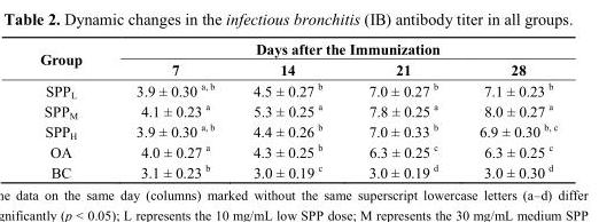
<table><thead><tr><td rowspan="2">Group</td><td colspan="4">Days after the Immunization</td></tr><tr><td>7</td><td>14</td><td>21</td><td>28</td></tr></thead><tbody><tr><td>SPP<sub>L</sub></td><td>3.9 ± 0.30 <sup>a, b</sup></td><td>4.5 ± 0.27 <sup>b</sup></td><td>7.0 ± 0.27 <sup>b</sup></td><td>7.1 ± 0.23 <sup>b</sup></td></tr><tr><td>SPP<sub>M</sub></td><td>4.1 ± 0.23 <sup>a</sup></td><td>5.3 ± 0.25 <sup>a</sup></td><td>7.8 ± 0.25 <sup>a</sup></td><td>8.0 ± 0.27 <sup>a</sup></td></tr><tr><td>SPP<sub>H</sub></td><td>3.9 ± 0.30 <sup>a, b</sup></td><td>4.4 ± 0.26 <sup>b</sup></td><td>7.0 ± 0.33 <sup>b</sup></td><td>6.9 ± 0.30 <sup>b, c</sup></td></tr><tr><td>OA</td><td>4.0 ± 0.27 <sup>a</sup></td><td>4.3 ± 0.25 <sup>b</sup></td><td>6.3 ± 0.25 <sup>c</sup></td><td>6.3 ± 0.25 <sup>c</sup></td></tr><tr><td>BC</td><td>3.1 ± 0.23 <sup>b</sup></td><td>3.0 ± 0.19 <sup>c</sup></td><td>3.0 ± 0.19 <sup>d</sup></td><td>3.0 ± 0.30 <sup>d</sup></td></tr></tbody></table>